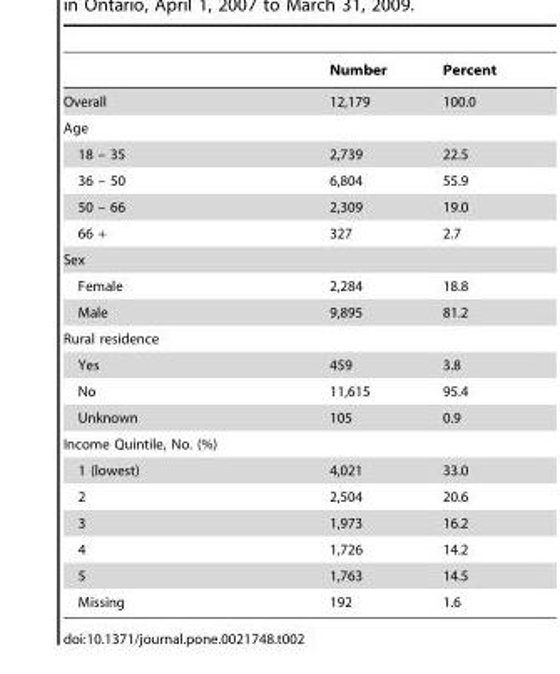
<table><thead><tr><td></td><td>Number</td><td>Percent</td></tr></thead><tbody><tr><td>Overall</td><td>12,179</td><td>100.0</td></tr><tr><td colspan="3">Age</td></tr><tr><td>18 – 35</td><td>2,739</td><td>22.5</td></tr><tr><td>36 – 50</td><td>6,804</td><td>55.9</td></tr><tr><td>50 – 66</td><td>2,309</td><td>19.0</td></tr><tr><td>66 +</td><td>327</td><td>2.7</td></tr><tr><td colspan="3">Sex</td></tr><tr><td>Female</td><td>2,284</td><td>18.8</td></tr><tr><td>Male</td><td>9,895</td><td>81.2</td></tr><tr><td colspan="3">Rural residence</td></tr><tr><td>Yes</td><td>459</td><td>3.8</td></tr><tr><td>No</td><td>11,615</td><td>95.4</td></tr><tr><td>Unknown</td><td>105</td><td>0.9</td></tr><tr><td colspan="3">Income Quintile, No. (%)</td></tr><tr><td>1 (lowest)</td><td>4,021</td><td>33.0</td></tr><tr><td>2</td><td>2,504</td><td>20.6</td></tr><tr><td>3</td><td>1,973</td><td>16.2</td></tr><tr><td>4</td><td>1,726</td><td>14.2</td></tr><tr><td>5</td><td>1,763</td><td>14.5</td></tr><tr><td>Missing</td><td>192</td><td>1.6</td></tr></tbody></table>